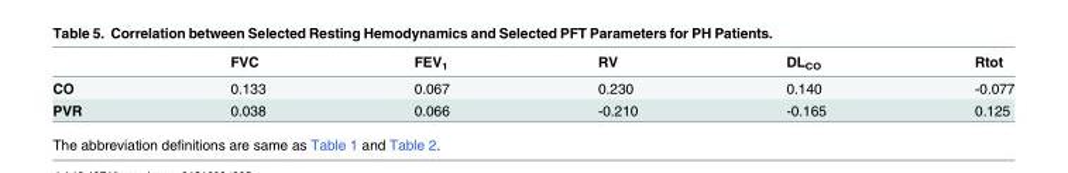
<table><thead><tr><td></td><td>FVC</td><td>FEV<sub>1</sub></td><td>RV</td><td>DL<sub>CO</sub></td><td>Rtot</td></tr></thead><tbody><tr><td>CO</td><td>0.133</td><td>0.067</td><td>0.230</td><td>0.140</td><td>-0.077</td></tr><tr><td>PVR</td><td>0.038</td><td>0.066</td><td>-0.210</td><td>-0.165</td><td>0.125</td></tr></tbody></table>